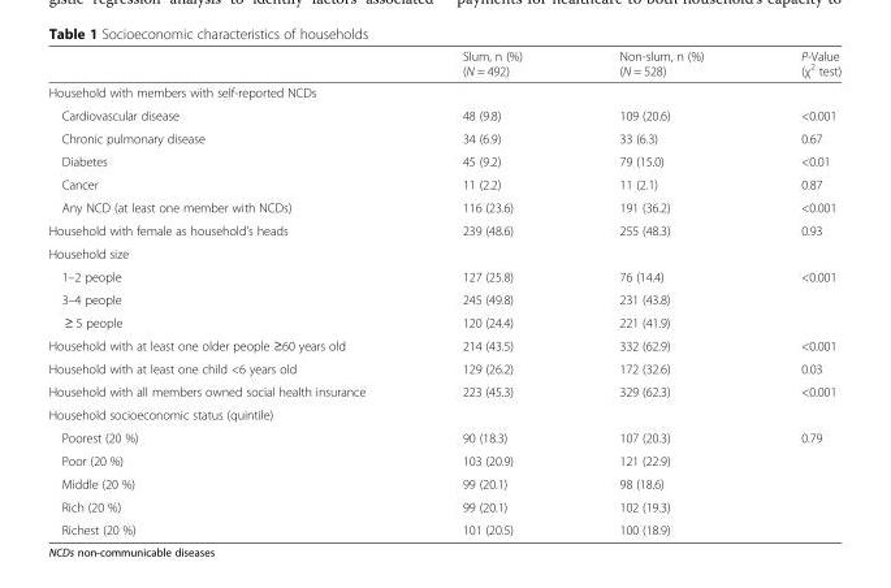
<table><thead><tr><td></td><td>Slum, n (%) (N = 492)</td><td>Non-slum, n (%) (N = 528)</td><td>P-Value (χ<sup>2</sup> test)</td></tr></thead><tbody><tr><td colspan="4">Household with members with self-reported NCDs</td></tr><tr><td>Cardiovascular disease</td><td>48 (9.8)</td><td>109 (20.6)</td><td>&lt;0.001</td></tr><tr><td>Chronic pulmonary disease</td><td>34 (6.9)</td><td>33 (6.3)</td><td>0.67</td></tr><tr><td>Diabetes</td><td>45 (9.2)</td><td>79 (15.0)</td><td>&lt;0.01</td></tr><tr><td>Cancer</td><td>11 (2.2)</td><td>11 (2.1)</td><td>0.87</td></tr><tr><td>Any NCD (at least one member with NCDs)</td><td>116 (23.6)</td><td>191 (36.2)</td><td>&lt;0.001</td></tr><tr><td>Household with female as household’s heads</td><td>239 (48.6)</td><td>255 (48.3)</td><td>0.93</td></tr><tr><td colspan="4">Household size</td></tr><tr><td>1–2 people</td><td>127 (25.8)</td><td>76 (14.4)</td><td rowspan="3">&lt;0.001</td></tr><tr><td>3–4 people</td><td>245 (49.8)</td><td>231 (43.8)</td></tr><tr><td>≥ 5 people</td><td>120 (24.4)</td><td>221 (41.9)</td></tr><tr><td>Household with at least one older people ≥60 years old</td><td>214 (43.5)</td><td>332 (62.9)</td><td>&lt;0.001</td></tr><tr><td>Household with at least one child &lt;6 years old</td><td>129 (26.2)</td><td>172 (32.6)</td><td>0.03</td></tr><tr><td>Household with all members owned social health insurance</td><td>223 (45.3)</td><td>329 (62.3)</td><td>&lt;0.001</td></tr><tr><td colspan="4">Household socioeconomic status (quintile)</td></tr><tr><td>Poorest (20 %)</td><td>90 (18.3)</td><td>107 (20.3)</td><td rowspan="5">0.79</td></tr><tr><td>Poor (20 %)</td><td>103 (20.9)</td><td>121 (22.9)</td></tr><tr><td>Middle (20 %)</td><td>99 (20.1)</td><td>98 (18.6)</td></tr><tr><td>Rich (20 %)</td><td>99 (20.1)</td><td>102 (19.3)</td></tr><tr><td>Richest (20 %)</td><td>101 (20.5)</td><td>100 (18.9)</td></tr></tbody></table>